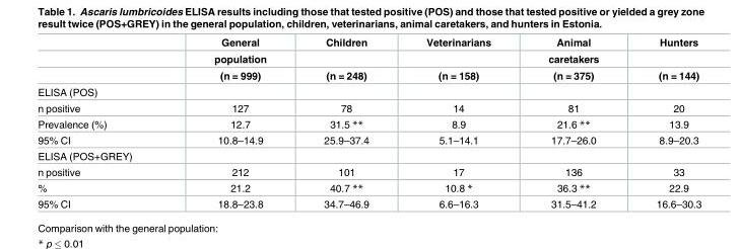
<table><thead><tr><td rowspan="3"></td><td rowspan="3">General population (n = 999)</td><td rowspan="3">Children (n = 248)</td><td rowspan="3">Veterinarians (n = 158)</td><td rowspan="3">Animal caretakers (n = 375)</td><td rowspan="3">Hunters (n = 144)</td></tr><tr></tr><tr></tr></thead><tbody><tr><td colspan="6">ELISA (POS)</td></tr><tr><td>n positive</td><td>127</td><td>78</td><td>14</td><td>81</td><td>20</td></tr><tr><td>Prevalence (%)</td><td>12.7</td><td>31.5 **</td><td>8.9</td><td>21.6 **</td><td>13.9</td></tr><tr><td>95% CI</td><td>10.8–14.9</td><td>25.9–37.4</td><td>5.1–14.1</td><td>17.7–26.0</td><td>8.9–20.3</td></tr><tr><td colspan="6">ELISA (POS+GREY)</td></tr><tr><td>n positive</td><td>212</td><td>101</td><td>17</td><td>136</td><td>33</td></tr><tr><td>%</td><td>21.2</td><td>40.7 **</td><td>10.8 *</td><td>36.3 **</td><td>22.9</td></tr><tr><td>95% CI</td><td>18.8–23.8</td><td>34.7–46.9</td><td>6.6–16.3</td><td>31.5–41.2</td><td>16.6–30.3</td></tr></tbody></table>